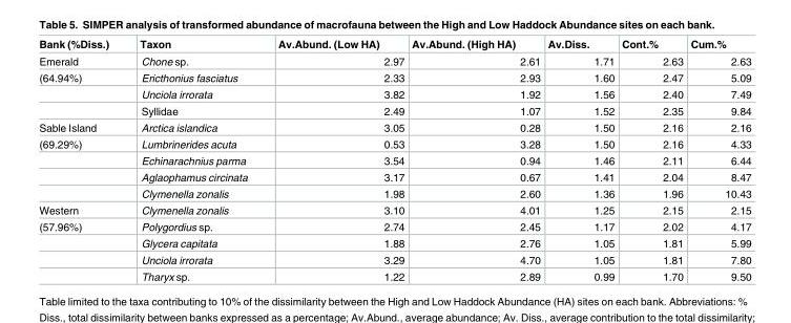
<table><thead><tr><td>Bank (%Diss.)</td><td>Taxon</td><td>Av.Abund. (Low HA)</td><td>Av.Abund. (High HA)</td><td>Av.Diss.</td><td>Cont.%</td><td>Cum.%</td></tr></thead><tbody><tr><td>Emerald</td><td>Chone sp.</td><td>2.97</td><td>2.61</td><td>1.71</td><td>2.63</td><td>2.63</td></tr><tr><td rowspan="3">(64.94%)</td><td>Ericthonius fasciatus</td><td>2.33</td><td>2.93</td><td>1.60</td><td>2.47</td><td>5.09</td></tr><tr><td>Unciola irrorata</td><td>3.82</td><td>1.92</td><td>1.56</td><td>2.40</td><td>7.49</td></tr><tr><td>Syllidae</td><td>2.49</td><td>1.07</td><td>1.52</td><td>2.35</td><td>9.84</td></tr><tr><td>Sable Island</td><td>Arctica islandica</td><td>3.05</td><td>0.28</td><td>1.50</td><td>2.16</td><td>2.16</td></tr><tr><td rowspan="4">(69.29%)</td><td>Lumbrinerides acuta</td><td>0.53</td><td>3.28</td><td>1.50</td><td>2.16</td><td>4.33</td></tr><tr><td>Echinarachnius parma</td><td>3.54</td><td>0.94</td><td>1.46</td><td>2.11</td><td>6.44</td></tr><tr><td>Aglaophamus circinata</td><td>3.17</td><td>0.67</td><td>1.41</td><td>2.04</td><td>8.47</td></tr><tr><td>Clymenella zonalis</td><td>1.98</td><td>2.60</td><td>1.36</td><td>1.96</td><td>10.43</td></tr><tr><td>Western</td><td>Clymenella zonalis</td><td>3.10</td><td>4.01</td><td>1.25</td><td>2.15</td><td>2.15</td></tr><tr><td rowspan="4">(57.96%)</td><td>Polygordius sp.</td><td>2.74</td><td>2.45</td><td>1.17</td><td>2.02</td><td>4.17</td></tr><tr><td>Glycera capitata</td><td>1.88</td><td>2.76</td><td>1.05</td><td>1.81</td><td>5.99</td></tr><tr><td>Unciola irrorata</td><td>3.29</td><td>4.70</td><td>1.05</td><td>1.81</td><td>7.80</td></tr><tr><td>Tharyx sp.</td><td>1.22</td><td>2.89</td><td>0.99</td><td>1.70</td><td>9.50</td></tr></tbody></table>